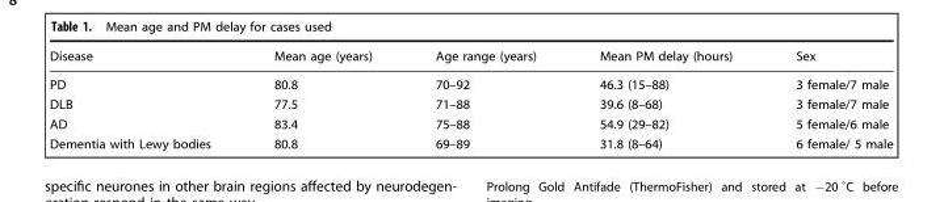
<table><thead><tr><td>Disease</td><td>Mean age (years)</td><td>Age range (years)</td><td>Mean PM delay (hours)</td><td>Sex</td></tr></thead><tbody><tr><td>PD</td><td>80.8</td><td>70–92</td><td>46.3 (15–88)</td><td>3 female/7 male</td></tr><tr><td>DLB</td><td>77.5</td><td>71–88</td><td>39.6 (8–68)</td><td>3 female/7 male</td></tr><tr><td>AD</td><td>83.4</td><td>75–88</td><td>54.9 (29–82)</td><td>5 female/6 male</td></tr><tr><td>Dementia with Lewy bodies</td><td>80.8</td><td>69–89</td><td>31.8 (8–64)</td><td>6 female/ 5 male</td></tr></tbody></table>